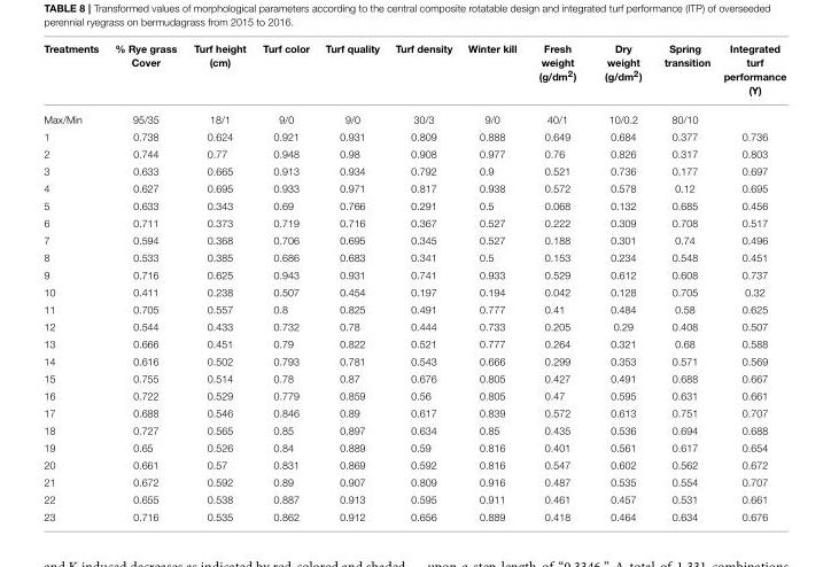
<table><thead><tr><td>Treatments</td><td>% Rye grass Cover</td><td>Turf height (cm)</td><td>Turf color</td><td>Turf quality</td><td>Turf density</td><td>Winter kill</td><td>Fresh weight (g/dm<sup>2</sup>)</td><td>Dry weight (g/dm<sup>2</sup>)</td><td>Spring transition</td><td>Integrated turf performance (Y)</td></tr></thead><tbody><tr><td>Max/Min</td><td>95/35</td><td>18/1</td><td>9/0</td><td>9/0</td><td>30/3</td><td>9/0</td><td>40/1</td><td>10/0.2</td><td>80/10</td><td></td></tr><tr><td>1</td><td>0.738</td><td>0.624</td><td>0.921</td><td>0.931</td><td>0.809</td><td>0.888</td><td>0.649</td><td>0.684</td><td>0.377</td><td>0.736</td></tr><tr><td>2</td><td>0.744</td><td>0.77</td><td>0.948</td><td>0.98</td><td>0.908</td><td>0.977</td><td>0.76</td><td>0.826</td><td>0.317</td><td>0.803</td></tr><tr><td>3</td><td>0.633</td><td>0.665</td><td>0.913</td><td>0.934</td><td>0.792</td><td>0.9</td><td>0.521</td><td>0.736</td><td>0.177</td><td>0.697</td></tr><tr><td>4</td><td>0.627</td><td>0.695</td><td>0.933</td><td>0.971</td><td>0.817</td><td>0.938</td><td>0.572</td><td>0.578</td><td>0.12</td><td>0.695</td></tr><tr><td>5</td><td>0.633</td><td>0.343</td><td>0.69</td><td>0.766</td><td>0.291</td><td>0.5</td><td>0.068</td><td>0.132</td><td>0.685</td><td>0.456</td></tr><tr><td>6</td><td>0.711</td><td>0.373</td><td>0.719</td><td>0.716</td><td>0.367</td><td>0.527</td><td>0.222</td><td>0.309</td><td>0.708</td><td>0.517</td></tr><tr><td>7</td><td>0.594</td><td>0.368</td><td>0.706</td><td>0.695</td><td>0.345</td><td>0.527</td><td>0.188</td><td>0.301</td><td>0.74</td><td>0.496</td></tr><tr><td>8</td><td>0.533</td><td>0.385</td><td>0.686</td><td>0.683</td><td>0.341</td><td>0.5</td><td>0.153</td><td>0.234</td><td>0.548</td><td>0.451</td></tr><tr><td>9</td><td>0.716</td><td>0.625</td><td>0.943</td><td>0.931</td><td>0.741</td><td>0.933</td><td>0.529</td><td>0.612</td><td>0.608</td><td>0.737</td></tr><tr><td>10</td><td>0.411</td><td>0.238</td><td>0.507</td><td>0.454</td><td>0.197</td><td>0.194</td><td>0.042</td><td>0.128</td><td>0.705</td><td>0.32</td></tr><tr><td>11</td><td>0.705</td><td>0.557</td><td>0.8</td><td>0.825</td><td>0.491</td><td>0.777</td><td>0.41</td><td>0.484</td><td>0.58</td><td>0.625</td></tr><tr><td>12</td><td>0.544</td><td>0.433</td><td>0.732</td><td>0.78</td><td>0.444</td><td>0.733</td><td>0.205</td><td>0.29</td><td>0.408</td><td>0.507</td></tr><tr><td>13</td><td>0.666</td><td>0.451</td><td>0.79</td><td>0.822</td><td>0.521</td><td>0.777</td><td>0.264</td><td>0.321</td><td>0.68</td><td>0.588</td></tr><tr><td>14</td><td>0.616</td><td>0.502</td><td>0.793</td><td>0.781</td><td>0.543</td><td>0.666</td><td>0.299</td><td>0.353</td><td>0.571</td><td>0.569</td></tr><tr><td>15</td><td>0.755</td><td>0.514</td><td>0.78</td><td>0.87</td><td>0.676</td><td>0.805</td><td>0.427</td><td>0.491</td><td>0.688</td><td>0.667</td></tr><tr><td>16</td><td>0.722</td><td>0.529</td><td>0.779</td><td>0.859</td><td>0.56</td><td>0.805</td><td>0.47</td><td>0.595</td><td>0.631</td><td>0.661</td></tr><tr><td>17</td><td>0.688</td><td>0.546</td><td>0.846</td><td>0.89</td><td>0.617</td><td>0.839</td><td>0.572</td><td>0.613</td><td>0.751</td><td>0.707</td></tr><tr><td>18</td><td>0.727</td><td>0.565</td><td>0.85</td><td>0.897</td><td>0.634</td><td>0.85</td><td>0.435</td><td>0.536</td><td>0.694</td><td>0.688</td></tr><tr><td>19</td><td>0.65</td><td>0.526</td><td>0.84</td><td>0.889</td><td>0.59</td><td>0.816</td><td>0.401</td><td>0.561</td><td>0.617</td><td>0.654</td></tr><tr><td>20</td><td>0.661</td><td>0.57</td><td>0.831</td><td>0.869</td><td>0.592</td><td>0.816</td><td>0.547</td><td>0.602</td><td>0.562</td><td>0.672</td></tr><tr><td>21</td><td>0.672</td><td>0.592</td><td>0.89</td><td>0.907</td><td>0.809</td><td>0.916</td><td>0.487</td><td>0.535</td><td>0.554</td><td>0.707</td></tr><tr><td>22</td><td>0.655</td><td>0.538</td><td>0.887</td><td>0.913</td><td>0.595</td><td>0.911</td><td>0.461</td><td>0.457</td><td>0.531</td><td>0.661</td></tr><tr><td>23</td><td>0.716</td><td>0.535</td><td>0.862</td><td>0.912</td><td>0.656</td><td>0.889</td><td>0.418</td><td>0.464</td><td>0.634</td><td>0.676</td></tr></tbody></table>